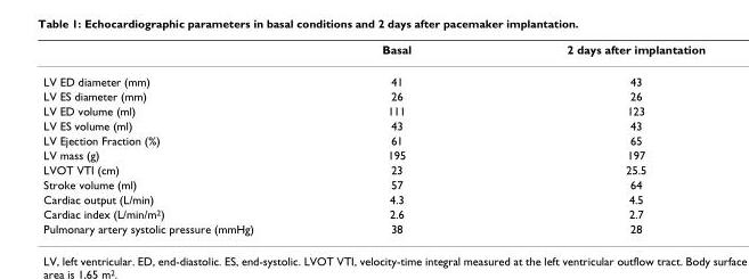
<table><thead><tr><td></td><td>Basal</td><td>2 days after implantation</td></tr></thead><tbody><tr><td>LV ED diameter (mm)</td><td>41</td><td>43</td></tr><tr><td>LV ES diameter (mm)</td><td>26</td><td>26</td></tr><tr><td>LV ED volume (ml)</td><td>111</td><td>123</td></tr><tr><td>LV ES volume (ml)</td><td>43</td><td>43</td></tr><tr><td>LV Ejection Fraction (%)</td><td>61</td><td>65</td></tr><tr><td>LV mass (g)</td><td>195</td><td>197</td></tr><tr><td>LVOT VTI (cm)</td><td>23</td><td>25.5</td></tr><tr><td>Stroke volume (ml)</td><td>57</td><td>64</td></tr><tr><td>Cardiac output (L/min)</td><td>4.3</td><td>4.5</td></tr><tr><td>Cardiac index (L/min/m<sup>2</sup>)</td><td>2.6</td><td>2.7</td></tr><tr><td>Pulmonary artery systolic pressure (mmHg)</td><td>38</td><td>28</td></tr></tbody></table>